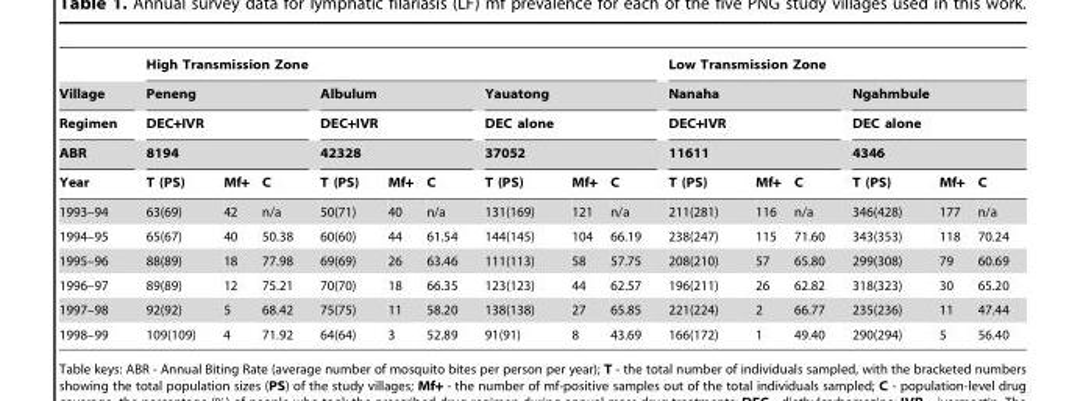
<table><thead><tr><td rowspan="5">Village Regimen ABR Year</td><td colspan="9">High Transmission Zone</td><td colspan="6">Low Transmission Zone</td></tr><tr><td rowspan="3" colspan="3">Peneng DEC+IVR 8194</td><td rowspan="3" colspan="3">Albulum DEC+IVR 42328</td><td rowspan="3" colspan="3">Yauatong DEC alone 37052</td><td rowspan="3" colspan="3">Nanaha DEC+IVR 11611</td><td rowspan="3" colspan="3">Ngahmbule DEC alone 4346</td></tr><tr></tr><tr></tr><tr><td>T (PS)</td><td>Mf+</td><td>C</td><td>T (PS)</td><td>Mf+</td><td>C</td><td>T (PS)</td><td>Mf+</td><td>C</td><td>T (PS)</td><td>Mf+</td><td>C</td><td>T (PS)</td><td>Mf+</td><td>C</td></tr></thead><tbody><tr><td>1993–94</td><td>63(69)</td><td>42</td><td>n/a</td><td>50(71)</td><td>40</td><td>n/a</td><td>131(169)</td><td>121</td><td>n/a</td><td>211(281)</td><td>116</td><td>n/a</td><td>346(428)</td><td>177</td><td>n/a</td></tr><tr><td>1994–95</td><td>65(67)</td><td>40</td><td>50.38</td><td>60(60)</td><td>44</td><td>61.54</td><td>144(145)</td><td>104</td><td>66.19</td><td>238(247)</td><td>115</td><td>71.60</td><td>343(353)</td><td>118</td><td>70.24</td></tr><tr><td>1995–96</td><td>88(89)</td><td>18</td><td>77.98</td><td>69(69)</td><td>26</td><td>63.46</td><td>111(113)</td><td>58</td><td>57.75</td><td>208(210)</td><td>57</td><td>65.80</td><td>299(308)</td><td>79</td><td>60.69</td></tr><tr><td>1996–97</td><td>89(89)</td><td>12</td><td>75.21</td><td>70(70)</td><td>18</td><td>66.35</td><td>123(123)</td><td>44</td><td>62.57</td><td>196(211)</td><td>26</td><td>62.82</td><td>318(323)</td><td>30</td><td>65.20</td></tr><tr><td>1997–98</td><td>92(92)</td><td>5</td><td>68.42</td><td>75(75)</td><td>11</td><td>58.20</td><td>138(138)</td><td>27</td><td>65.85</td><td>221(224)</td><td>2</td><td>66.77</td><td>235(236)</td><td>11</td><td>47.44</td></tr><tr><td>1998–99</td><td>109(109)</td><td>4</td><td>71.92</td><td>64(64)</td><td>3</td><td>52.89</td><td>91(91)</td><td>8</td><td>43.69</td><td>166(172)</td><td>1</td><td>49.40</td><td>290(294)</td><td>5</td><td>56.40</td></tr></tbody></table>